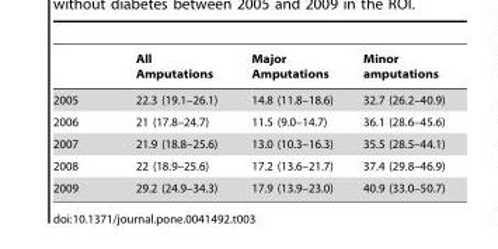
<table><thead><tr><td></td><td>All Amputations</td><td>Major Amputations</td><td>Minor amputations</td></tr></thead><tbody><tr><td>2005</td><td>22.3 (19.1–26.1)</td><td>14.8 (11.8–18.6)</td><td>32.7 (26.2–40.9)</td></tr><tr><td>2006</td><td>21 (17.8–24.7)</td><td>11.5 (9.0–14.7)</td><td>36.1 (28.6–45.6)</td></tr><tr><td>2007</td><td>21.9 (18.8–25.6)</td><td>13.0 (10.3–16.3)</td><td>35.5 (28.5–44.1)</td></tr><tr><td>2008</td><td>22 (18.9–25.6)</td><td>17.2 (13.6–21.7)</td><td>37.4 (29.8–46.9)</td></tr><tr><td>2009</td><td>29.2 (24.9–34.3)</td><td>17.9 (13.9–23.0)</td><td>40.9 (33.0–50.7)</td></tr></tbody></table>